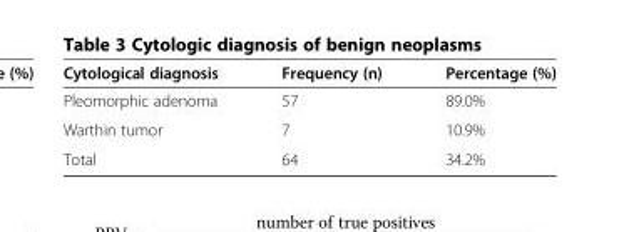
<table><thead><tr><td>Cytological diagnosis</td><td>Frequency (n)</td><td>Percentage (%)</td></tr></thead><tbody><tr><td>Pleomorphic adenoma</td><td>57</td><td>89.0%</td></tr><tr><td>Warthin tumor</td><td>7</td><td>10.9%</td></tr><tr><td>Total</td><td>64</td><td>34.2%</td></tr></tbody></table>